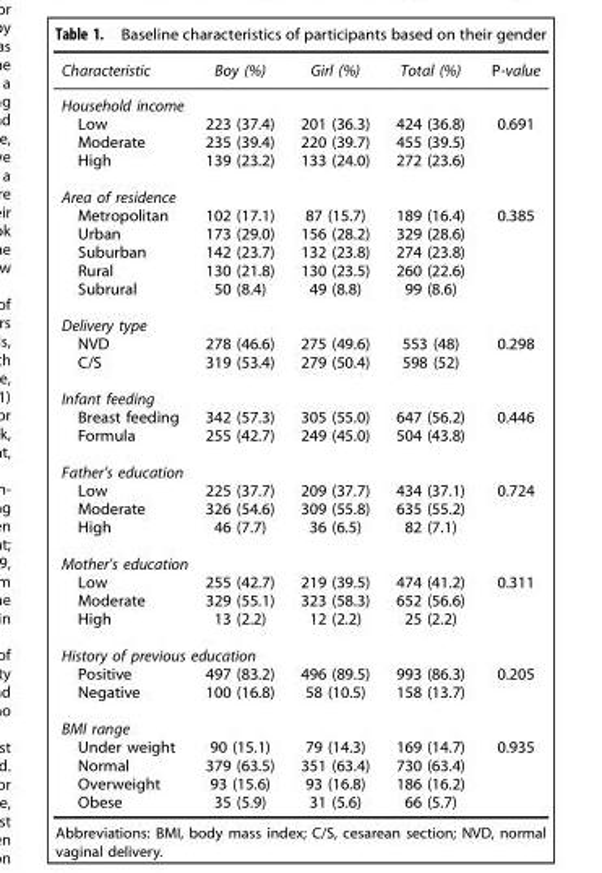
<table><thead><tr><td>Characteristic</td><td>Boy (%)</td><td>Girl (%)</td><td>Total (%)</td><td>P-value</td></tr></thead><tbody><tr><td colspan="5">Household income</td></tr><tr><td>Low</td><td>223 (37.4)</td><td>201 (36.3)</td><td>424 (36.8)</td><td>0.691</td></tr><tr><td>Moderate</td><td>235 (39.4)</td><td>220 (39.7)</td><td>455 (39.5)</td><td></td></tr><tr><td>High</td><td>139 (23.2)</td><td>133 (24.0)</td><td>272 (23.6)</td><td></td></tr><tr><td colspan="5">Area of residence</td></tr><tr><td>Metropolitan</td><td>102 (17.1)</td><td>87 (15.7)</td><td>189 (16.4)</td><td>0.385</td></tr><tr><td>Urban</td><td>173 (29.0)</td><td>156 (28.2)</td><td>329 (28.6)</td><td></td></tr><tr><td>Suburban</td><td>142 (23.7)</td><td>132 (23.8)</td><td>274 (23.8)</td><td></td></tr><tr><td>Rural</td><td>130 (21.8)</td><td>130 (23.5)</td><td>260 (22.6)</td><td></td></tr><tr><td>Subrural</td><td>50 (8.4)</td><td>49 (8.8)</td><td>99 (8.6)</td><td></td></tr><tr><td colspan="5">Delivery type</td></tr><tr><td>NVD</td><td>278 (46.6)</td><td>275 (49.6)</td><td>553 (48)</td><td>0.298</td></tr><tr><td>C/S</td><td>319 (53.4)</td><td>279 (50.4)</td><td>598 (52)</td><td></td></tr><tr><td colspan="5">Infant feeding</td></tr><tr><td>Breast feeding</td><td>342 (57.3)</td><td>305 (55.0)</td><td>647 (56.2)</td><td>0.446</td></tr><tr><td>Formula</td><td>255 (42.7)</td><td>249 (45.0)</td><td>504 (43.8)</td><td></td></tr><tr><td colspan="5">Father’s education</td></tr><tr><td>Low</td><td>225 (37.7)</td><td>209 (37.7)</td><td>434 (37.1)</td><td>0.724</td></tr><tr><td>Moderate</td><td>326 (54.6)</td><td>309 (55.8)</td><td>635 (55.2)</td><td></td></tr><tr><td>High</td><td>46 (7.7)</td><td>36 (6.5)</td><td>82 (7.1)</td><td></td></tr><tr><td colspan="5">Mother’s education</td></tr><tr><td>Low</td><td>255 (42.7)</td><td>219 (39.5)</td><td>474 (41.2)</td><td>0.311</td></tr><tr><td>Moderate</td><td>329 (55.1)</td><td>323 (58.3)</td><td>652 (56.6)</td><td></td></tr><tr><td>High</td><td>13 (2.2)</td><td>12 (2.2)</td><td>25 (2.2)</td><td></td></tr><tr><td colspan="5">History of previous education</td></tr><tr><td>Positive</td><td>497 (83.2)</td><td>496 (89.5)</td><td>993 (86.3)</td><td>0.205</td></tr><tr><td>Negative</td><td>100 (16.8)</td><td>58 (10.5)</td><td>158 (13.7)</td><td></td></tr><tr><td colspan="5">BMI range</td></tr><tr><td>Under weight</td><td>90 (15.1)</td><td>79 (14.3)</td><td>169 (14.7)</td><td>0.935</td></tr><tr><td>Normal</td><td>379 (63.5)</td><td>351 (63.4)</td><td>730 (63.4)</td><td></td></tr><tr><td>Overweight</td><td>93 (15.6)</td><td>93 (16.8)</td><td>186 (16.2)</td><td></td></tr><tr><td>Obese</td><td>35 (5.9)</td><td>31 (5.6)</td><td>66 (5.7)</td><td></td></tr></tbody></table>